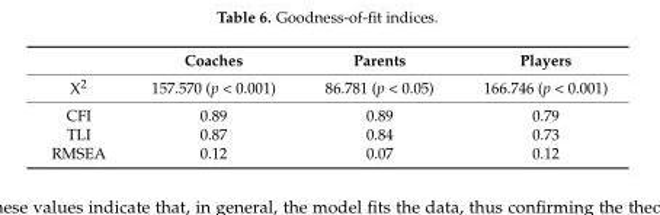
<table><thead><tr><td></td><td>Coaches</td><td>Parents</td><td>Players</td></tr></thead><tbody><tr><td>X<sup>2</sup></td><td>157.570 (p &lt; 0.001)</td><td>86.781 (p &lt; 0.05)</td><td>166.746 (p &lt; 0.001)</td></tr><tr><td>CFI</td><td>0.89</td><td>0.89</td><td>0.79</td></tr><tr><td>TLI</td><td>0.87</td><td>0.84</td><td>0.73</td></tr><tr><td>RMSEA</td><td>0.12</td><td>0.07</td><td>0.12</td></tr></tbody></table>